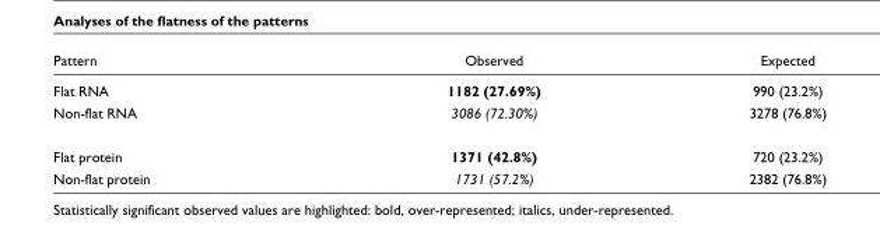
<table><thead><tr><td>Pattern</td><td>Observed</td><td>Expected</td></tr></thead><tbody><tr><td>Flat RNA</td><td>1182 (27.69%)</td><td>990 (23.2%)</td></tr><tr><td>Non-flat RNA</td><td>3086 (72.30%)</td><td>3278 (76.8%)</td></tr><tr><td>Flat protein</td><td>1371 (42.8%)</td><td>720 (23.2%)</td></tr><tr><td>Non-flat protein</td><td>1731 (57.2%)</td><td>2382 (76.8%)</td></tr></tbody></table>